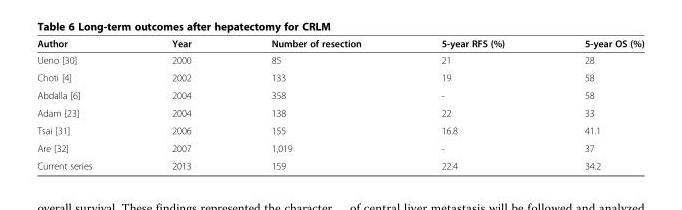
<table><thead><tr><td>Author</td><td>Year</td><td>Number of resection</td><td>5-year RFS (%)</td><td>5-year OS (%)</td></tr></thead><tbody><tr><td>Ueno [30]</td><td>2000</td><td>85</td><td>21</td><td>28</td></tr><tr><td>Choti [4]</td><td>2002</td><td>133</td><td>19</td><td>58</td></tr><tr><td>Abdalla [6]</td><td>2004</td><td>358</td><td>-</td><td>58</td></tr><tr><td>Adam [23]</td><td>2004</td><td>138</td><td>22</td><td>33</td></tr><tr><td>Tsai [31]</td><td>2006</td><td>155</td><td>16.8</td><td>41.1</td></tr><tr><td>Are [32]</td><td>2007</td><td>1,019</td><td>-</td><td>37</td></tr><tr><td>Current series</td><td>2013</td><td>159</td><td>22.4</td><td>34.2</td></tr></tbody></table>